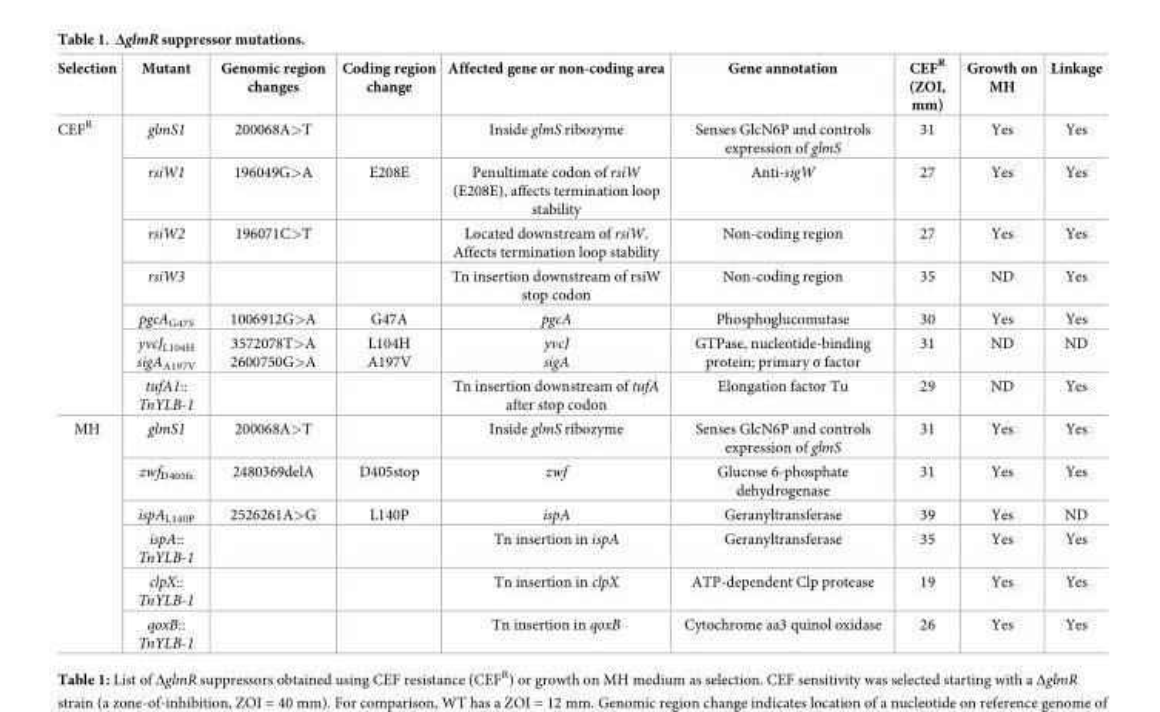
<table><thead><tr><td>Selection</td><td>Mutant</td><td>Genomic region changes</td><td>Coding region change</td><td>Affected gene or non-coding area</td><td>Gene annotation</td><td>CEF<sup>R</sup> (ZOI, mm)</td><td>Growth on MH</td><td>Linkage</td></tr></thead><tbody><tr><td rowspan="7">CEF<sup>R</sup></td><td>glmS1</td><td>200068A&gt;T</td><td></td><td>Inside glmS ribozyme</td><td>Senses GlcN6P and controls expression of glmS</td><td>31</td><td>Yes</td><td>Yes</td></tr><tr><td>rsiW1</td><td>196049G&gt;A</td><td>E208E</td><td>Penultimate codon of rsiW (E208E), affects termination loop stability</td><td>Anti-sigW</td><td>27</td><td>Yes</td><td>Yes</td></tr><tr><td>rsiW2</td><td>196071C&gt;T</td><td></td><td>Located downstream of rsiW. Affects termination loop stability</td><td>Non-coding region</td><td>27</td><td>Yes</td><td>Yes</td></tr><tr><td>rsiW3</td><td></td><td></td><td>Tn insertion downstream of rsiW stop codon</td><td>Non-coding region</td><td>35</td><td>ND</td><td>Yes</td></tr><tr><td>pgcA<sub>G47S</sub></td><td>1006912G&gt;A</td><td>G47A</td><td>pgcA</td><td>Phosphoglucomutase</td><td>30</td><td>Yes</td><td>Yes</td></tr><tr><td>yvcJ<sub>L104H</sub> sigA<sub>A197V</sub></td><td>3572078T&gt;A 2600750G&gt;A</td><td>L104H A197V</td><td>yvcJ sigA</td><td>GTPase, nucleotide-binding protein; primary σ factor</td><td>31</td><td>ND</td><td>ND</td></tr><tr><td>tufA1:: TnYLB-1</td><td></td><td></td><td>Tn insertion downstream of tufA after stop codon</td><td>Elongation factor Tu</td><td>29</td><td>ND</td><td>Yes</td></tr><tr><td rowspan="6">MH</td><td>glmS1</td><td>200068A&gt;T</td><td></td><td>Inside glmS ribozyme</td><td>Senses GlcN6P and controls expression of glmS</td><td>31</td><td>Yes</td><td>Yes</td></tr><tr><td>zwf<sub>D405fs</sub></td><td>2480369delA</td><td>D405stop</td><td>zwf</td><td>Glucose 6-phosphate dehydrogenase</td><td>31</td><td>Yes</td><td>Yes</td></tr><tr><td>ispA<sub>L140P</sub></td><td>2526261A&gt;G</td><td>L140P</td><td>ispA</td><td>Geranyltransferase</td><td>39</td><td>Yes</td><td>ND</td></tr><tr><td>ispA:: TnYLB-1</td><td></td><td></td><td>Tn insertion in ispA</td><td>Geranyltransferase</td><td>35</td><td>Yes</td><td>Yes</td></tr><tr><td>clpX:: TnYLB-1</td><td></td><td></td><td>Tn insertion in clpX</td><td>ATP-dependent Clp protease</td><td>19</td><td>Yes</td><td>Yes</td></tr><tr><td>qoxB:: TnYLB-1</td><td></td><td></td><td>Tn insertion in qoxB</td><td>Cytochrome aa3 quinol oxidase</td><td>26</td><td>Yes</td><td>Yes</td></tr></tbody></table>